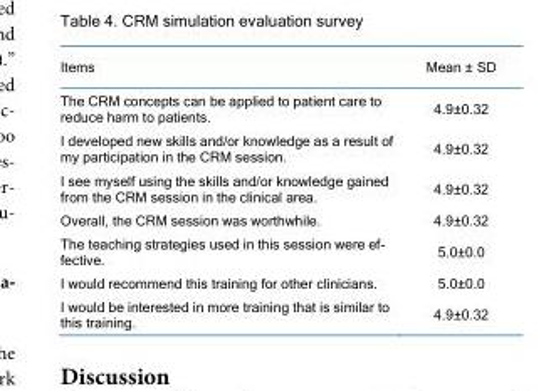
<table><thead><tr><td>Items</td><td>Mean ± SD</td></tr></thead><tbody><tr><td>The CRM concepts can be applied to patient care to reduce harm to patients.</td><td>4.9±0.32</td></tr><tr><td>I developed new skills and/or knowledge as a result of my participation in the CRM session.</td><td>4.9±0.32</td></tr><tr><td>I see myself using the skills and/or knowledge gained from the CRM session in the clinical area.</td><td>4.9±0.32</td></tr><tr><td>Overall, the CRM session was worthwhile.</td><td>4.9±0.32</td></tr><tr><td>The teaching strategies used in this session were ef- fective.</td><td>5.0±0.0</td></tr><tr><td>I would recommend this training for other clinicians.</td><td>5.0±0.0</td></tr><tr><td>I would be interested in more training that is similar to this training.</td><td>4.9±0.32</td></tr></tbody></table>